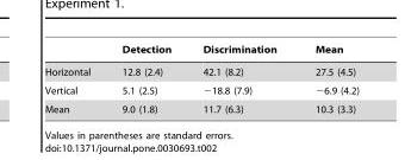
<table><thead><tr><td></td><td>Detection</td><td>Discrimination</td><td>Mean</td></tr></thead><tbody><tr><td>Horizontal</td><td>12.8 (2.4)</td><td>42.1 (8.2)</td><td>27.5 (4.5)</td></tr><tr><td>Vertical</td><td>5.1 (2.5)</td><td>−18.8 (7.9)</td><td>−6.9 (4.2)</td></tr><tr><td>Mean</td><td>9.0 (1.8)</td><td>11.7 (6.3)</td><td>10.3 (3.3)</td></tr></tbody></table>